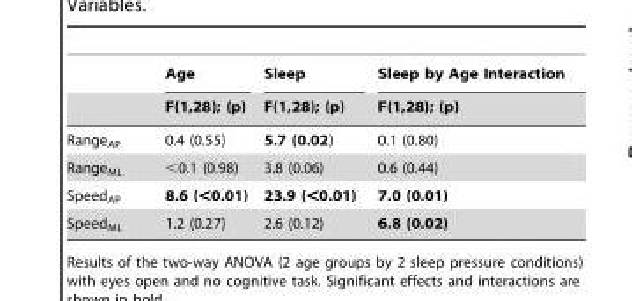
<table><thead><tr><td rowspan="2"></td><td rowspan="2">Age F(1,28); (p)</td><td rowspan="2">Sleep F(1,28); (p)</td><td rowspan="2">Sleep by Age Interaction F(1,28); (p)</td></tr><tr></tr></thead><tbody><tr><td>Range<sub>AP</sub></td><td>0.4 (0.55)</td><td>5.7 (0.02)</td><td>0.1 (0.80)</td></tr><tr><td>Range<sub>ML</sub></td><td>&lt;0.1 (0.98)</td><td>3.8 (0.06)</td><td>0.6 (0.44)</td></tr><tr><td>Speed<sub>AP</sub></td><td>8.6 (&lt;0.01)</td><td>23.9 (&lt;0.01)</td><td>7.0 (0.01)</td></tr><tr><td>Speed<sub>ML</sub></td><td>1.2 (0.27)</td><td>2.6 (0.12)</td><td>6.8 (0.02)</td></tr></tbody></table>